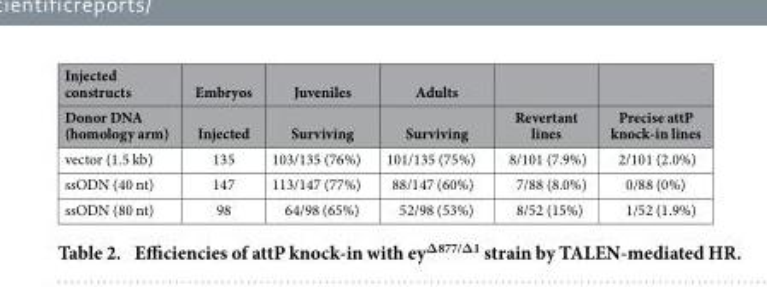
<table><thead><tr><td rowspan="2">Injected constructs Donor DNA (homology arm)</td><td rowspan="2">Embryos Injected</td><td rowspan="2">Juveniles Surviving</td><td rowspan="2">Adults Surviving</td><td rowspan="2">Revertant lines</td><td rowspan="2">Precise attP knock-in lines</td></tr><tr></tr></thead><tbody><tr><td>vector (1.5 kb)</td><td>135</td><td>103/135 (76%)</td><td>101/135 (75%)</td><td>8/101 (7.9%)</td><td>2/101 (2.0%)</td></tr><tr><td>ssODN (40 nt)</td><td>147</td><td>113/147 (77%)</td><td>88/147 (60%)</td><td>7/88 (8.0%)</td><td>0/88 (0%)</td></tr><tr><td>ssODN (80 nt)</td><td>98</td><td>64/98 (65%)</td><td>52/98 (53%)</td><td>8/52 (15%)</td><td>1/52 (1.9%)</td></tr></tbody></table>